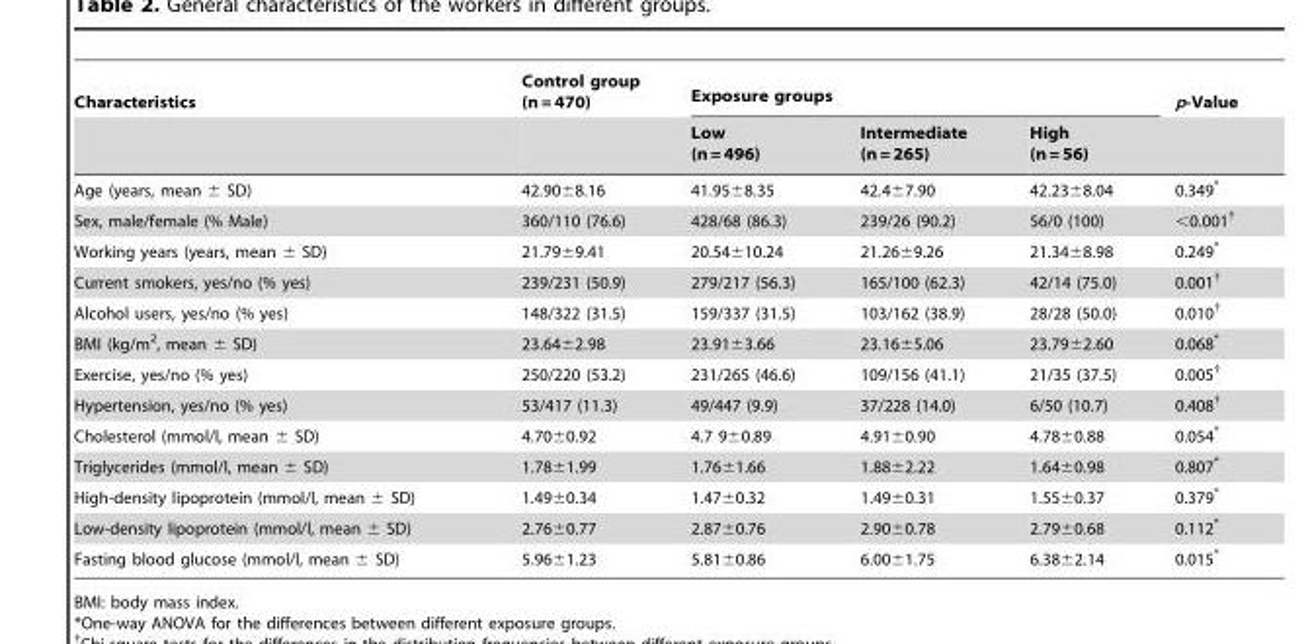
<table><thead><tr><td rowspan="2">Characteristics</td><td rowspan="2">Control group (n = 470)</td><td colspan="3">Exposure groups</td><td rowspan="2">p-Value</td></tr><tr><td>Low (n = 496)</td><td>Intermediate (n = 265)</td><td>High (n = 56)</td></tr></thead><tbody><tr><td>Age (years, mean ± SD)</td><td>42.90±8.16</td><td>41.95±8.35</td><td>42.4±7.90</td><td>42.23±8.04</td><td>0.349*</td></tr><tr><td>Sex, male/female (% Male)</td><td>360/110 (76.6)</td><td>428/68 (86.3)</td><td>239/26 (90.2)</td><td>56/0 (100)</td><td>&lt;0.001†</td></tr><tr><td>Working years (years, mean ± SD)</td><td>21.79±9.41</td><td>20.54±10.24</td><td>21.26±9.26</td><td>21.34±8.98</td><td>0.249*</td></tr><tr><td>Current smokers, yes/no (% yes)</td><td>239/231 (50.9)</td><td>279/217 (56.3)</td><td>165/100 (62.3)</td><td>42/14 (75.0)</td><td>0.001†</td></tr><tr><td>Alcohol users, yes/no (% yes)</td><td>148/322 (31.5)</td><td>159/337 (31.5)</td><td>103/162 (38.9)</td><td>28/28 (50.0)</td><td>0.010†</td></tr><tr><td>BMI (kg/m<sup>2</sup>, mean ± SD)</td><td>23.64±2.98</td><td>23.91±3.66</td><td>23.16±5.06</td><td>23.79±2.60</td><td>0.068*</td></tr><tr><td>Exercise, yes/no (% yes)</td><td>250/220 (53.2)</td><td>231/265 (46.6)</td><td>109/156 (41.1)</td><td>21/35 (37.5)</td><td>0.005†</td></tr><tr><td>Hypertension, yes/no (% yes)</td><td>53/417 (11.3)</td><td>49/447 (9.9)</td><td>37/228 (14.0)</td><td>6/50 (10.7)</td><td>0.408†</td></tr><tr><td>Cholesterol (mmol/l, mean ± SD)</td><td>4.70±0.92</td><td>4.7 9±0.89</td><td>4.91±0.90</td><td>4.78±0.88</td><td>0.054*</td></tr><tr><td>Triglycerides (mmol/l, mean ± SD)</td><td>1.78±1.99</td><td>1.76±1.66</td><td>1.88±2.22</td><td>1.64±0.98</td><td>0.807*</td></tr><tr><td>High-density lipoprotein (mmol/l, mean ± SD)</td><td>1.49±0.34</td><td>1.47±0.32</td><td>1.49±0.31</td><td>1.55±0.37</td><td>0.379*</td></tr><tr><td>Low-density lipoprotein (mmol/l, mean ± SD)</td><td>2.76±0.77</td><td>2.87±0.76</td><td>2.90±0.78</td><td>2.79±0.68</td><td>0.112*</td></tr><tr><td>Fasting blood glucose (mmol/l, mean ± SD)</td><td>5.96±1.23</td><td>5.81±0.86</td><td>6.00±1.75</td><td>6.38±2.14</td><td>0.015*</td></tr></tbody></table>